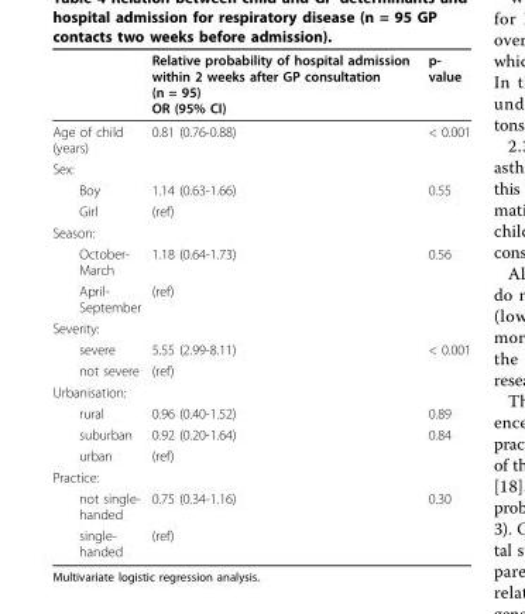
<table><thead><tr><td></td><td>Relative probability of hospital admission within 2 weeks after GP consultation (n = 95) OR (95% CI)</td><td>p- value</td></tr></thead><tbody><tr><td>Age of child (years)</td><td>0.81 (0.76-0.88)</td><td>&lt; 0.001</td></tr><tr><td colspan="3">Sex:</td></tr><tr><td>Boy</td><td>1.14 (0.63-1.66)</td><td>0.55</td></tr><tr><td>Girl</td><td>(ref)</td><td></td></tr><tr><td colspan="3">Season:</td></tr><tr><td>October- March</td><td>1.18 (0.64-1.73)</td><td>0.56</td></tr><tr><td>April- September</td><td>(ref)</td><td></td></tr><tr><td colspan="3">Severity:</td></tr><tr><td>severe</td><td>5.55 (2.99-8.11)</td><td>&lt; 0.001</td></tr><tr><td>not severe</td><td>(ref)</td><td></td></tr><tr><td colspan="3">Urbanisation:</td></tr><tr><td>rural</td><td>0.96 (0.40-1.52)</td><td>0.89</td></tr><tr><td>suburban</td><td>0.92 (0.20-1.64)</td><td>0.84</td></tr><tr><td>urban</td><td>(ref)</td><td></td></tr><tr><td colspan="3">Practice:</td></tr><tr><td>not single- handed</td><td>0.75 (0.34-1.16)</td><td>0.30</td></tr><tr><td>single- handed</td><td>(ref)</td><td></td></tr></tbody></table>